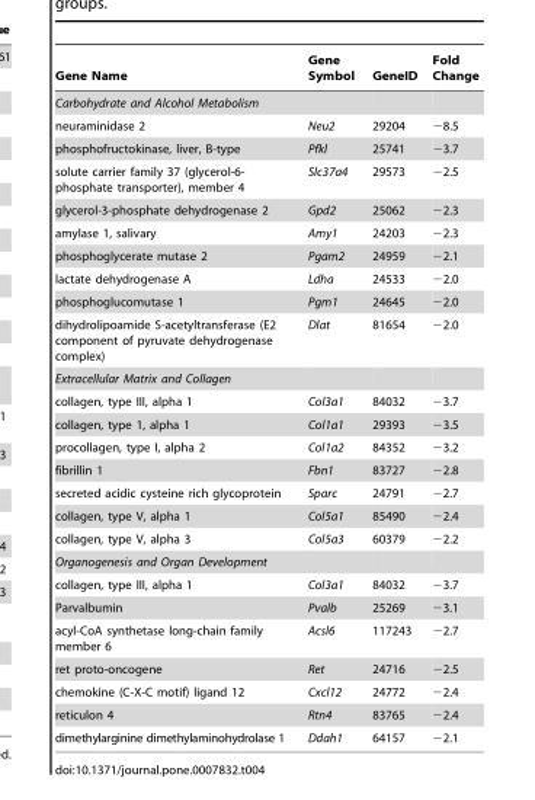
<table><thead><tr><td>Gene Name</td><td>Gene Symbol</td><td>GeneID</td><td>Fold Change</td></tr></thead><tbody><tr><td colspan="4">Carbohydrate and Alcohol Metabolism</td></tr><tr><td>neuraminidase 2</td><td>Neu2</td><td>29204</td><td>−8.5</td></tr><tr><td>phosphofructokinase, liver, B-type</td><td>Pfkl</td><td>25741</td><td>−3.7</td></tr><tr><td>solute carrier family 37 (glycerol-6- phosphate transporter), member 4</td><td>Slc37a4</td><td>29573</td><td>−2.5</td></tr><tr><td>glycerol-3-phosphate dehydrogenase 2</td><td>Gpd2</td><td>25062</td><td>−2.3</td></tr><tr><td>amylase 1, salivary</td><td>Amy1</td><td>24203</td><td>−2.3</td></tr><tr><td>phosphoglycerate mutase 2</td><td>Pgam2</td><td>24959</td><td>−2.1</td></tr><tr><td>lactate dehydrogenase A</td><td>Ldha</td><td>24533</td><td>−2.0</td></tr><tr><td>phosphoglucomutase 1</td><td>Pgm1</td><td>24645</td><td>−2.0</td></tr><tr><td>dihydrolipoamide S-acetyltransferase (E2 component of pyruvate dehydrogenase complex)</td><td>Dlat</td><td>81654</td><td>−2.0</td></tr><tr><td colspan="4">Extracellular Matrix and Collagen</td></tr><tr><td>collagen, type III, alpha 1</td><td>Col3a1</td><td>84032</td><td>−3.7</td></tr><tr><td>collagen, type 1, alpha 1</td><td>Col1a1</td><td>29393</td><td>−3.5</td></tr><tr><td>procollagen, type I, alpha 2</td><td>Col1a2</td><td>84352</td><td>−3.2</td></tr><tr><td>fibrillin 1</td><td>Fbn1</td><td>83727</td><td>−2.8</td></tr><tr><td>secreted acidic cysteine rich glycoprotein</td><td>Sparc</td><td>24791</td><td>−2.7</td></tr><tr><td>collagen, type V, alpha 1</td><td>Col5a1</td><td>85490</td><td>−2.4</td></tr><tr><td>collagen, type V, alpha 3</td><td>Col5a3</td><td>60379</td><td>−2.2</td></tr><tr><td colspan="4">Organogenesis and Organ Development</td></tr><tr><td>collagen, type III, alpha 1</td><td>Col3a1</td><td>84032</td><td>−3.7</td></tr><tr><td>Parvalbumin</td><td>Pvalb</td><td>25269</td><td>−3.1</td></tr><tr><td>acyl-CoA synthetase long-chain family member 6</td><td>Acsl6</td><td>117243</td><td>−2.7</td></tr><tr><td>ret proto-oncogene</td><td>Ret</td><td>24716</td><td>−2.5</td></tr><tr><td>chemokine (C-X-C motif) ligand 12</td><td>Cxcl12</td><td>24772</td><td>−2.4</td></tr><tr><td>reticulon 4</td><td>Rtn4</td><td>83765</td><td>−2.4</td></tr><tr><td>dimethylarginine dimethylaminohydrolase 1</td><td>Ddah1</td><td>64157</td><td>−2.1</td></tr></tbody></table>